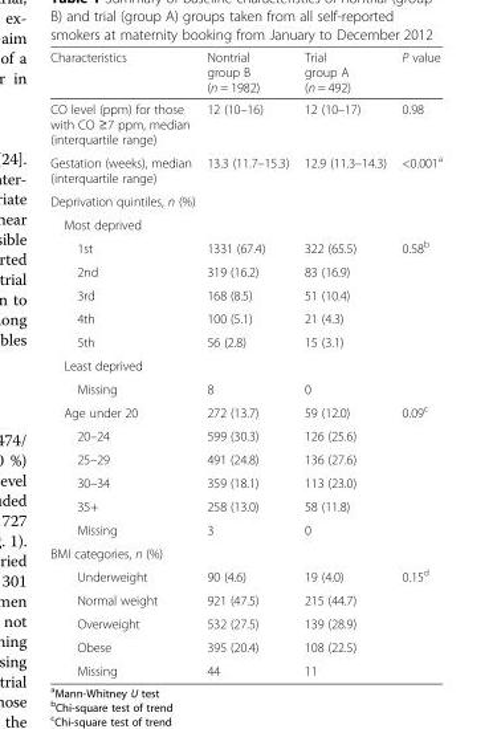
<table><thead><tr><td>Characteristics</td><td>Nontrial group B (n = 1982)</td><td>Trial group A (n = 492)</td><td>P value</td></tr></thead><tbody><tr><td>CO level (ppm) for those with CO ≥7 ppm, median (interquartile range)</td><td>12 (10–16)</td><td>12 (10–17)</td><td>0.98</td></tr><tr><td>Gestation (weeks), median (interquartile range)</td><td>13.3 (11.7–15.3)</td><td>12.9 (11.3–14.3)</td><td>&lt;0.001<sup>a</sup></td></tr><tr><td colspan="4">Deprivation quintiles, n (%)</td></tr><tr><td colspan="4">Most deprived</td></tr><tr><td>1st</td><td>1331 (67.4)</td><td>322 (65.5)</td><td>0.58<sup>b</sup></td></tr><tr><td>2nd</td><td>319 (16.2)</td><td>83 (16.9)</td><td></td></tr><tr><td>3rd</td><td>168 (8.5)</td><td>51 (10.4)</td><td></td></tr><tr><td>4th</td><td>100 (5.1)</td><td>21 (4.3)</td><td></td></tr><tr><td>5th</td><td>56 (2.8)</td><td>15 (3.1)</td><td></td></tr><tr><td colspan="4">Least deprived</td></tr><tr><td>Missing</td><td>8</td><td>0</td><td></td></tr><tr><td>Age under 20</td><td>272 (13.7)</td><td>59 (12.0)</td><td rowspan="6">0.09<sup>c</sup></td></tr><tr><td>20–24</td><td>599 (30.3)</td><td>126 (25.6)</td></tr><tr><td>25–29</td><td>491 (24.8)</td><td>136 (27.6)</td></tr><tr><td>30–34</td><td>359 (18.1)</td><td>113 (23.0)</td></tr><tr><td>35+</td><td>258 (13.0)</td><td>58 (11.8)</td></tr><tr><td>Missing</td><td>3</td><td>0</td></tr><tr><td colspan="4">BMI categories, n (%)</td></tr><tr><td>Underweight</td><td>90 (4.6)</td><td>19 (4.0)</td><td rowspan="5">0.15<sup>d</sup></td></tr><tr><td>Normal weight</td><td>921 (47.5)</td><td>215 (44.7)</td></tr><tr><td>Overweight</td><td>532 (27.5)</td><td>139 (28.9)</td></tr><tr><td>Obese</td><td>395 (20.4)</td><td>108 (22.5)</td></tr><tr><td>Missing</td><td>44</td><td>11</td></tr></tbody></table>